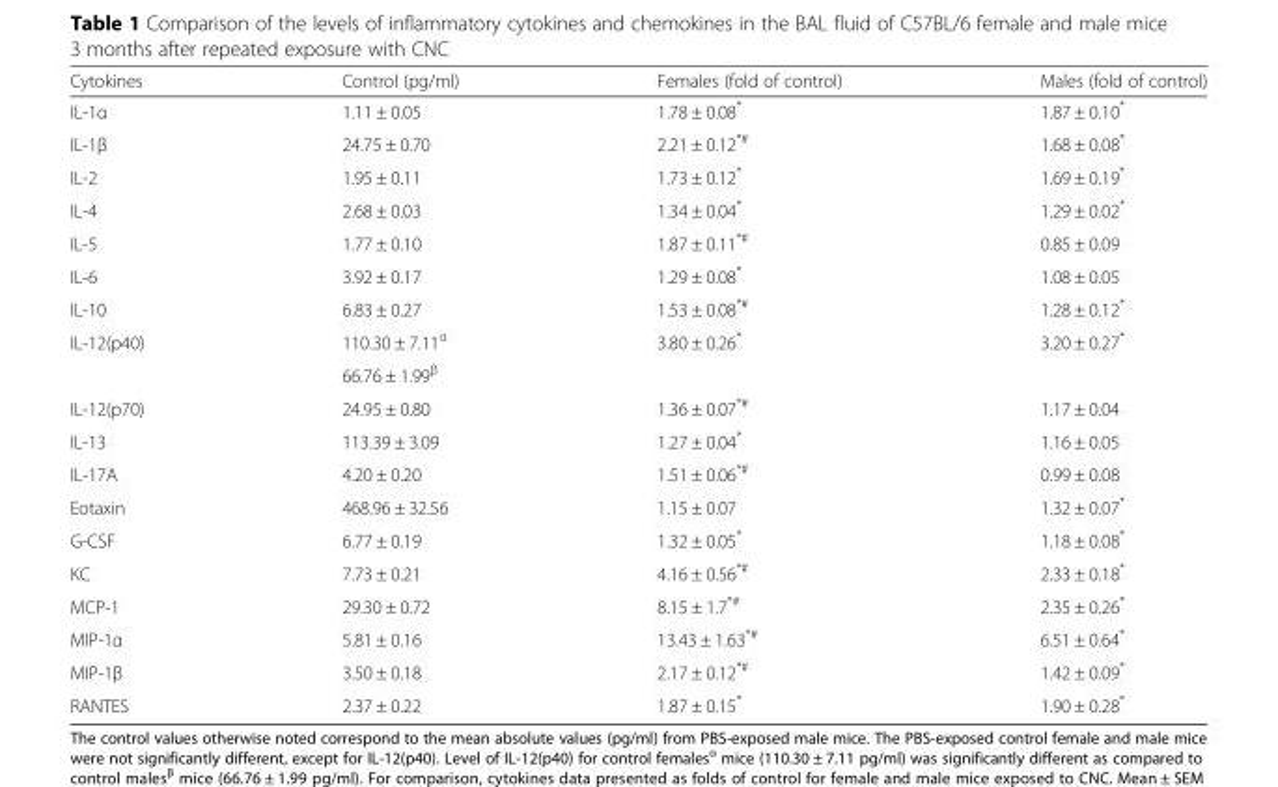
<table><thead><tr><td>Cytokines</td><td>Control (pg/ml)</td><td>Females (fold of control)</td><td>Males (fold of control)</td></tr></thead><tbody><tr><td>IL-1α</td><td>1.11 ± 0.05</td><td>1.78 ± 0.08*</td><td>1.87 ± 0.10*</td></tr><tr><td>IL-1β</td><td>24.75 ± 0.70</td><td>2.21 ± 0.12<sup>*#</sup></td><td>1.68 ± 0.08*</td></tr><tr><td>IL-2</td><td>1.95 ± 0.11</td><td>1.73 ± 0.12*</td><td>1.69 ± 0.19*</td></tr><tr><td>IL-4</td><td>2.68 ± 0.03</td><td>1.34 ± 0.04*</td><td>1.29 ± 0.02*</td></tr><tr><td>IL-5</td><td>1.77 ± 0.10</td><td>1.87 ± 0.11<sup>*#</sup></td><td>0.85 ± 0.09</td></tr><tr><td>IL-6</td><td>3.92 ± 0.17</td><td>1.29 ± 0.08*</td><td>1.08 ± 0.05</td></tr><tr><td>IL-10</td><td>6.83 ± 0.27</td><td>1.53 ± 0.08<sup>*#</sup></td><td>1.28 ± 0.12*</td></tr><tr><td rowspan="2">IL-12(p40)</td><td>110.30 ± 7.11<sup>α</sup></td><td rowspan="2">3.80 ± 0.26*</td><td rowspan="2">3.20 ± 0.27*</td></tr><tr><td>66.76 ± 1.99<sup>β</sup></td></tr><tr><td>IL-12(p70)</td><td>24.95 ± 0.80</td><td>1.36 ± 0.07<sup>*#</sup></td><td>1.17 ± 0.04</td></tr><tr><td>IL-13</td><td>113.39 ± 3.09</td><td>1.27 ± 0.04*</td><td>1.16 ± 0.05</td></tr><tr><td>IL-17A</td><td>4.20 ± 0.20</td><td>1.51 ± 0.06<sup>*#</sup></td><td>0.99 ± 0.08</td></tr><tr><td>Eotaxin</td><td>468.96 ± 32.56</td><td>1.15 ± 0.07</td><td>1.32 ± 0.07*</td></tr><tr><td>G-CSF</td><td>6.77 ± 0.19</td><td>1.32 ± 0.05*</td><td>1.18 ± 0.08*</td></tr><tr><td>KC</td><td>7.73 ± 0.21</td><td>4.16 ± 0.56<sup>*#</sup></td><td>2.33 ± 0.18*</td></tr><tr><td>MCP-1</td><td>29.30 ± 0.72</td><td>8.15 ± 1.7<sup>*#</sup></td><td>2.35 ± 0.26*</td></tr><tr><td>MIP-1α</td><td>5.81 ± 0.16</td><td>13.43 ± 1.63<sup>*#</sup></td><td>6.51 ± 0.64*</td></tr><tr><td>MIP-1β</td><td>3.50 ± 0.18</td><td>2.17 ± 0.12<sup>*#</sup></td><td>1.42 ± 0.09*</td></tr><tr><td>RANTES</td><td>2.37 ± 0.22</td><td>1.87 ± 0.15*</td><td>1.90 ± 0.28*</td></tr></tbody></table>